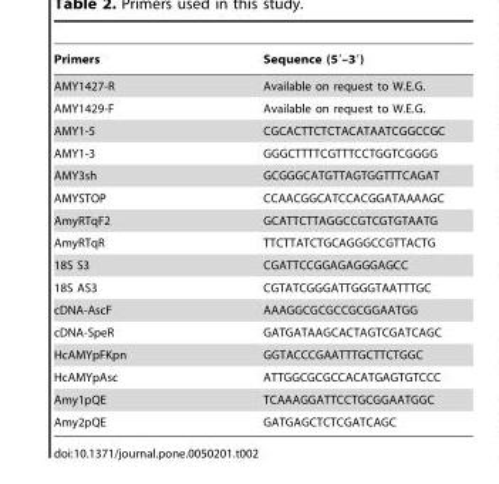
<table><thead><tr><td>Primers</td><td>Sequence (5′–3′)</td></tr></thead><tbody><tr><td>AMY1427-R</td><td>Available on request to W.E.G.</td></tr><tr><td>AMY1429-F</td><td>Available on request to W.E.G.</td></tr><tr><td>AMY1-5</td><td>CGCACTTCTCTACATAATCGGCCGC</td></tr><tr><td>AMY1-3</td><td>GGGCTTTTCGTTTCCTGGTCGGGG</td></tr><tr><td>AMY3sh</td><td>GCGGGCATGTTAGTGGTTTCAGAT</td></tr><tr><td>AMYSTOP</td><td>CCAACGGCATCCACGGATAAAAGC</td></tr><tr><td>AmyRTqF2</td><td>GCATTCTTAGGCCGTCGTGTAATG</td></tr><tr><td>AmyRTqR</td><td>TTCTTATCTGCAGGGCCGTTACTG</td></tr><tr><td>18S S3</td><td>CGATTCCGGAGAGGGAGCC</td></tr><tr><td>18S AS3</td><td>CGTATCGGGATTGGGTAATTTGC</td></tr><tr><td>cDNA-AscF</td><td>AAAGGCGCGCCGCGGAATGG</td></tr><tr><td>cDNA-SpeR</td><td>GATGATAAGCACTAGTCGATCAGC</td></tr><tr><td>HcAMYpFKpn</td><td>GGTACCCGAATTTGCTTCTGGC</td></tr><tr><td>HcAMYpAsc</td><td>ATTGGCGCGCCACATGAGTGTCCC</td></tr><tr><td>Amy1pQE</td><td>TCAAAGGATTCCTGCGGAATGGC</td></tr><tr><td>Amy2pQE</td><td>GATGAGCTCTCGATCAGC</td></tr></tbody></table>